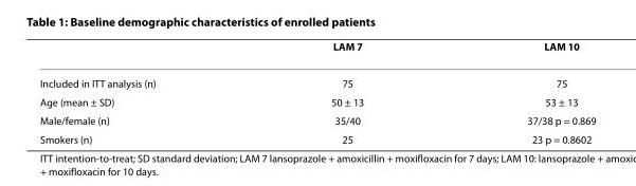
<table><thead><tr><td></td><td>LAM 7</td><td>LAM 10</td></tr></thead><tbody><tr><td>Included in ITT analysis (n)</td><td>75</td><td>75</td></tr><tr><td>Age (mean ± SD)</td><td>50 ± 13</td><td>53 ± 13</td></tr><tr><td>Male/female (n)</td><td>35/40</td><td>37/38 p = 0.869</td></tr><tr><td>Smokers (n)</td><td>25</td><td>23 p = 0.8602</td></tr></tbody></table>